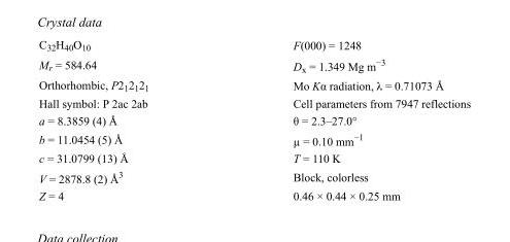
<table><tbody><tr><td>C<sub>32</sub>H<sub>40</sub>O<sub>10</sub></td><td>F(000) = 1248</td></tr><tr><td>M<sub>r</sub> = 584.64</td><td>D<sub>x</sub> = 1.349 Mg m<sup>−3</sup></td></tr><tr><td>Orthorhombic, P2<sub>1</sub>2<sub>1</sub>2<sub>1</sub></td><td>Mo Kα radiation, λ = 0.71073 Å</td></tr><tr><td>Hall symbol: P 2ac 2ab</td><td>Cell parameters from 7947 reflections</td></tr><tr><td>a = 8.3859 (4) Å</td><td>θ = 2.3–27.0°</td></tr><tr><td>b = 11.0454 (5) Å</td><td>µ = 0.10 mm<sup>−1</sup></td></tr><tr><td>c = 31.0799 (13) Å</td><td>T = 110 K</td></tr><tr><td>V = 2878.8 (2) Å<sup>3</sup></td><td>Block, colorless</td></tr><tr><td>Z = 4</td><td>0.46 × 0.44 × 0.25 mm</td></tr></tbody></table>